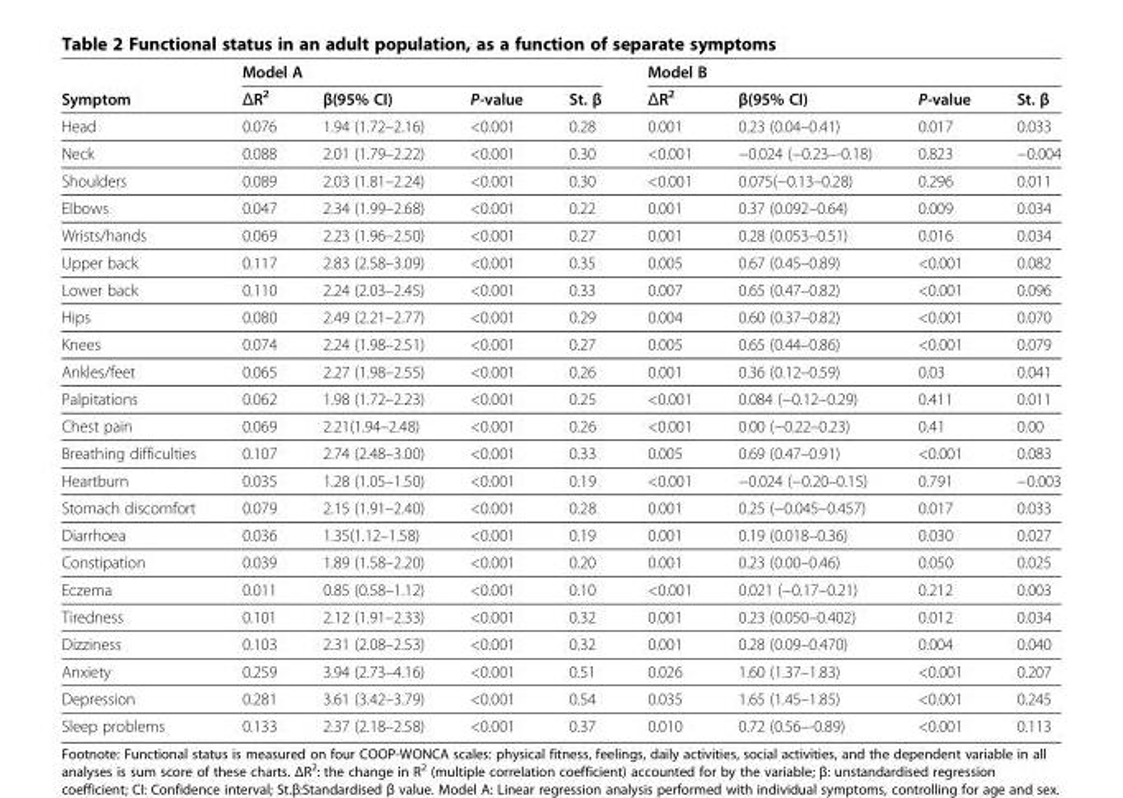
<table><thead><tr><td rowspan="2">Symptom</td><td colspan="4">Model A</td><td colspan="4">Model B</td></tr><tr><td>ΔR<sup>2</sup></td><td>β(95% CI)</td><td>P-value</td><td>St. β</td><td>ΔR<sup>2</sup></td><td>β(95% CI)</td><td>P-value</td><td>St. β</td></tr></thead><tbody><tr><td>Head</td><td>0.076</td><td>1.94 (1.72–2.16)</td><td>&lt;0.001</td><td>0.28</td><td>0.001</td><td>0.23 (0.04–0.41)</td><td>0.017</td><td>0.033</td></tr><tr><td>Neck</td><td>0.088</td><td>2.01 (1.79–2.22)</td><td>&lt;0.001</td><td>0.30</td><td>&lt;0.001</td><td>−0.024 (−0.23–-0.18)</td><td>0.823</td><td>−0.004</td></tr><tr><td>Shoulders</td><td>0.089</td><td>2.03 (1.81–2.24)</td><td>&lt;0.001</td><td>0.30</td><td>&lt;0.001</td><td>0.075(−0.13–0.28)</td><td>0.296</td><td>0.011</td></tr><tr><td>Elbows</td><td>0.047</td><td>2.34 (1.99–2.68)</td><td>&lt;0.001</td><td>0.22</td><td>0.001</td><td>0.37 (0.092–0.64)</td><td>0.009</td><td>0.034</td></tr><tr><td>Wrists/hands</td><td>0.069</td><td>2.23 (1.96–2.50)</td><td>&lt;0.001</td><td>0.27</td><td>0.001</td><td>0.28 (0.053–0.51)</td><td>0.016</td><td>0.034</td></tr><tr><td>Upper back</td><td>0.117</td><td>2.83 (2.58–3.09)</td><td>&lt;0.001</td><td>0.35</td><td>0.005</td><td>0.67 (0.45–0.89)</td><td>&lt;0.001</td><td>0.082</td></tr><tr><td>Lower back</td><td>0.110</td><td>2.24 (2.03–2.45)</td><td>&lt;0.001</td><td>0.33</td><td>0.007</td><td>0.65 (0.47–0.82)</td><td>&lt;0.001</td><td>0.096</td></tr><tr><td>Hips</td><td>0.080</td><td>2.49 (2.21–2.77)</td><td>&lt;0.001</td><td>0.29</td><td>0.004</td><td>0.60 (0.37–0.82)</td><td>&lt;0.001</td><td>0.070</td></tr><tr><td>Knees</td><td>0.074</td><td>2.24 (1.98–2.51)</td><td>&lt;0.001</td><td>0.27</td><td>0.005</td><td>0.65 (0.44–0.86)</td><td>&lt;0.001</td><td>0.079</td></tr><tr><td>Ankles/feet</td><td>0.065</td><td>2.27 (1.98–2.55)</td><td>&lt;0.001</td><td>0.26</td><td>0.001</td><td>0.36 (0.12–0.59)</td><td>0.03</td><td>0.041</td></tr><tr><td>Palpitations</td><td>0.062</td><td>1.98 (1.72–2.23)</td><td>&lt;0.001</td><td>0.25</td><td>&lt;0.001</td><td>0.084 (−0.12–0.29)</td><td>0.411</td><td>0.011</td></tr><tr><td>Chest pain</td><td>0.069</td><td>2.21(1.94–2.48)</td><td>&lt;0.001</td><td>0.26</td><td>&lt;0.001</td><td>0.00 (−0.22–0.23)</td><td>0.41</td><td>0.00</td></tr><tr><td>Breathing difficulties</td><td>0.107</td><td>2.74 (2.48–3.00)</td><td>&lt;0.001</td><td>0.33</td><td>0.005</td><td>0.69 (0.47–0.91)</td><td>&lt;0.001</td><td>0.083</td></tr><tr><td>Heartburn</td><td>0.035</td><td>1.28 (1.05–1.50)</td><td>&lt;0.001</td><td>0.19</td><td>&lt;0.001</td><td>−0.024 (−0.20–0.15)</td><td>0.791</td><td>−0.003</td></tr><tr><td>Stomach discomfort</td><td>0.079</td><td>2.15 (1.91–2.40)</td><td>&lt;0.001</td><td>0.28</td><td>0.001</td><td>0.25 (−0.045–0.457)</td><td>0.017</td><td>0.033</td></tr><tr><td>Diarrhoea</td><td>0.036</td><td>1.35(1.12–1.58)</td><td>&lt;0.001</td><td>0.19</td><td>0.001</td><td>0.19 (0.018–0.36)</td><td>0.030</td><td>0.027</td></tr><tr><td>Constipation</td><td>0.039</td><td>1.89 (1.58–2.20)</td><td>&lt;0.001</td><td>0.20</td><td>0.001</td><td>0.23 (0.00–0.46)</td><td>0.050</td><td>0.025</td></tr><tr><td>Eczema</td><td>0.011</td><td>0.85 (0.58–1.12)</td><td>&lt;0.001</td><td>0.10</td><td>&lt;0.001</td><td>0.021 (−0.17–0.21)</td><td>0.212</td><td>0.003</td></tr><tr><td>Tiredness</td><td>0.101</td><td>2.12 (1.91–2.33)</td><td>&lt;0.001</td><td>0.32</td><td>0.001</td><td>0.23 (0.050–0.402)</td><td>0.012</td><td>0.034</td></tr><tr><td>Dizziness</td><td>0.103</td><td>2.31 (2.08–2.53)</td><td>&lt;0.001</td><td>0.32</td><td>0.001</td><td>0.28 (0.09–0.470)</td><td>0.004</td><td>0.040</td></tr><tr><td>Anxiety</td><td>0.259</td><td>3.94 (2.73–4.16)</td><td>&lt;0.001</td><td>0.51</td><td>0.026</td><td>1.60 (1.37–1.83)</td><td>&lt;0.001</td><td>0.207</td></tr><tr><td>Depression</td><td>0.281</td><td>3.61 (3.42–3.79)</td><td>&lt;0.001</td><td>0.54</td><td>0.035</td><td>1.65 (1.45–1.85)</td><td>&lt;0.001</td><td>0.245</td></tr><tr><td>Sleep problems</td><td>0.133</td><td>2.37 (2.18–2.58)</td><td>&lt;0.001</td><td>0.37</td><td>0.010</td><td>0.72 (0.56–-0.89)</td><td>&lt;0.001</td><td>0.113</td></tr></tbody></table>